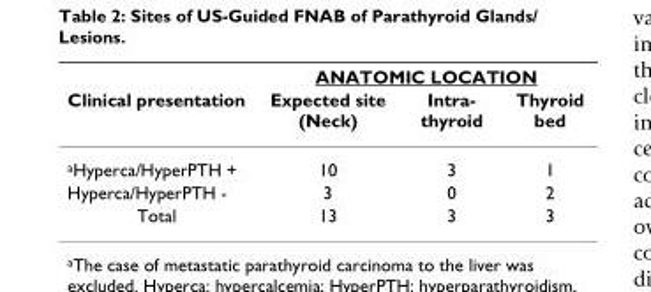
<table><thead><tr><td rowspan="2">Clinical presentation</td><td colspan="3">ANATOMIC LOCATION</td></tr><tr><td>Expected site (Neck)</td><td>Intra- thyroid</td><td>Thyroid bed</td></tr></thead><tbody><tr><td><sup>a</sup>Hyperca/HyperPTH +</td><td>10</td><td>3</td><td>1</td></tr><tr><td>Hyperca/HyperPTH -</td><td>3</td><td>0</td><td>2</td></tr><tr><td>Total</td><td>13</td><td>3</td><td>3</td></tr></tbody></table>